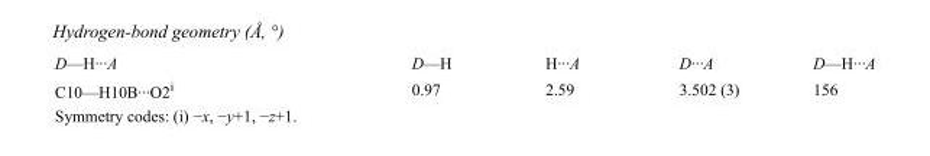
<table><tbody><tr><td>D—H···A</td><td>D—H</td><td>H···A</td><td>D···A</td><td>D—H···A</td></tr><tr><td>C10—H10B···O2<sup>i</sup></td><td>0.97</td><td>2.59</td><td>3.502 (3)</td><td>156</td></tr></tbody></table>